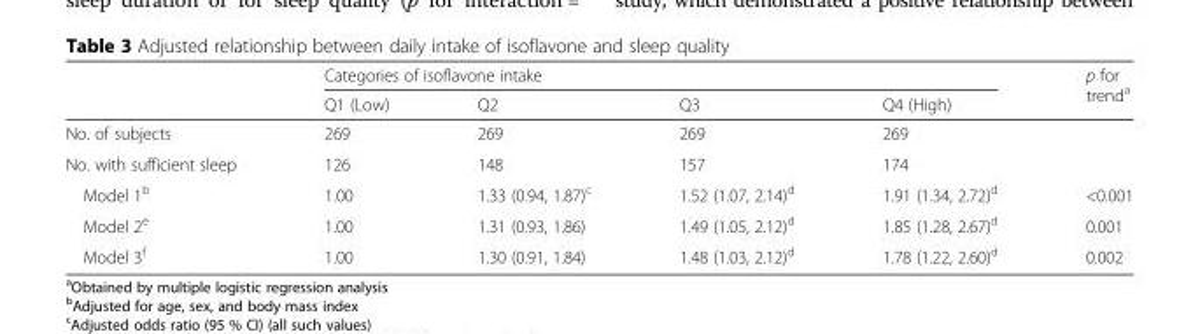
<table><thead><tr><td rowspan="2"></td><td colspan="4">Categories of isoflavone intake</td><td rowspan="2">p for trend<sup>a</sup></td></tr><tr><td>Q1 (Low)</td><td>Q2</td><td>Q3</td><td>Q4 (High)</td></tr></thead><tbody><tr><td>No. of subjects</td><td>269</td><td>269</td><td>269</td><td>269</td><td></td></tr><tr><td>No. with sufficient sleep</td><td>126</td><td>148</td><td>157</td><td>174</td><td></td></tr><tr><td>Model 1<sup>b</sup></td><td>1.00</td><td>1.33 (0.94, 1.87)<sup>c</sup></td><td>1.52 (1.07, 2.14)<sup>d</sup></td><td>1.91 (1.34, 2.72)<sup>d</sup></td><td>&lt;0.001</td></tr><tr><td>Model 2<sup>e</sup></td><td>1.00</td><td>1.31 (0.93, 1.86)</td><td>1.49 (1.05, 2.12)<sup>d</sup></td><td>1.85 (1.28, 2.67)<sup>d</sup></td><td>0.001</td></tr><tr><td>Model 3<sup>f</sup></td><td>1.00</td><td>1.30 (0.91, 1.84)</td><td>1.48 (1.03, 2.12)<sup>d</sup></td><td>1.78 (1.22, 2.60)<sup>d</sup></td><td>0.002</td></tr></tbody></table>